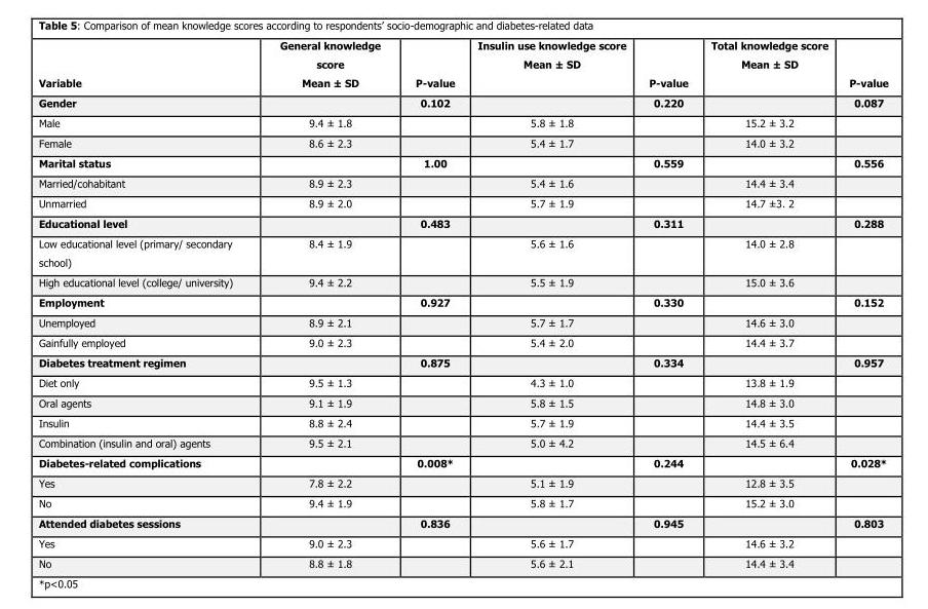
<table><thead><tr><td>Variable</td><td>General knowledge score Mean ± SD</td><td>P-value</td><td>Insulin use knowledge score Mean ± SD</td><td>P-value</td><td>Total knowledge score Mean ± SD</td><td>P-value</td></tr></thead><tbody><tr><td>Gender</td><td></td><td>0.102</td><td></td><td>0.220</td><td></td><td>0.087</td></tr><tr><td>Male</td><td>9.4 ± 1.8</td><td></td><td>5.8 ± 1.8</td><td></td><td>15.2 ± 3.2</td><td></td></tr><tr><td>Female</td><td>8.6 ± 2.3</td><td></td><td>5.4 ± 1.7</td><td></td><td>14.0 ± 3.2</td><td></td></tr><tr><td>Marital status</td><td></td><td>1.00</td><td></td><td>0.559</td><td></td><td>0.556</td></tr><tr><td>Married/cohabitant</td><td>8.9 ± 2.3</td><td></td><td>5.4 ± 1.6</td><td></td><td>14.4 ± 3.4</td><td></td></tr><tr><td>Unmarried</td><td>8.9 ± 2.0</td><td></td><td>5.7 ± 1.9</td><td></td><td>14.7 ±3. 2</td><td></td></tr><tr><td>Educational level</td><td></td><td>0.483</td><td></td><td>0.311</td><td></td><td>0.288</td></tr><tr><td>Low educational level (primary/ secondary school)</td><td>8.4 ± 1.9</td><td></td><td>5.6 ± 1.6</td><td></td><td>14.0 ± 2.8</td><td></td></tr><tr><td>High educational level (college/ university)</td><td>9.4 ± 2.2</td><td></td><td>5.5 ± 1.9</td><td></td><td>15.0 ± 3.6</td><td></td></tr><tr><td>Employment</td><td></td><td>0.927</td><td></td><td>0.330</td><td></td><td>0.152</td></tr><tr><td>Unemployed</td><td>8.9 ± 2.1</td><td></td><td>5.7 ± 1.7</td><td></td><td>14.6 ± 3.0</td><td></td></tr><tr><td>Gainfully employed</td><td>9.0 ± 2.3</td><td></td><td>5.4 ± 2.0</td><td></td><td>14.4 ± 3.7</td><td></td></tr><tr><td>Diabetes treatment regimen</td><td></td><td>0.875</td><td></td><td>0.334</td><td></td><td>0.957</td></tr><tr><td>Diet only</td><td>9.5 ± 1.3</td><td></td><td>4.3 ± 1.0</td><td></td><td>13.8 ± 1.9</td><td></td></tr><tr><td>Oral agents</td><td>9.1 ± 1.9</td><td></td><td>5.8 ± 1.5</td><td></td><td>14.8 ± 3.0</td><td></td></tr><tr><td>Insulin</td><td>8.8 ± 2.4</td><td></td><td>5.7 ± 1.9</td><td></td><td>14.4 ± 3.5</td><td></td></tr><tr><td>Combination (insulin and oral) agents</td><td>9.5 ± 2.1</td><td></td><td>5.0 ± 4.2</td><td></td><td>14.5 ± 6.4</td><td></td></tr><tr><td>Diabetes-related complications</td><td></td><td>0.008*</td><td></td><td>0.244</td><td></td><td>0.028*</td></tr><tr><td>Yes</td><td>7.8 ± 2.2</td><td></td><td>5.1 ± 1.9</td><td></td><td>12.8 ± 3.5</td><td></td></tr><tr><td>No</td><td>9.4 ± 1.9</td><td></td><td>5.8 ± 1.7</td><td></td><td>15.2 ± 3.0</td><td></td></tr><tr><td>Attended diabetes sessions</td><td></td><td>0.836</td><td></td><td>0.945</td><td></td><td>0.803</td></tr><tr><td>Yes</td><td>9.0 ± 2.3</td><td></td><td>5.6 ± 1.7</td><td></td><td>14.6 ± 3.2</td><td></td></tr><tr><td>No</td><td>8.8 ± 1.8</td><td></td><td>5.6 ± 2.1</td><td></td><td>14.4 ± 3.4</td><td></td></tr></tbody></table>